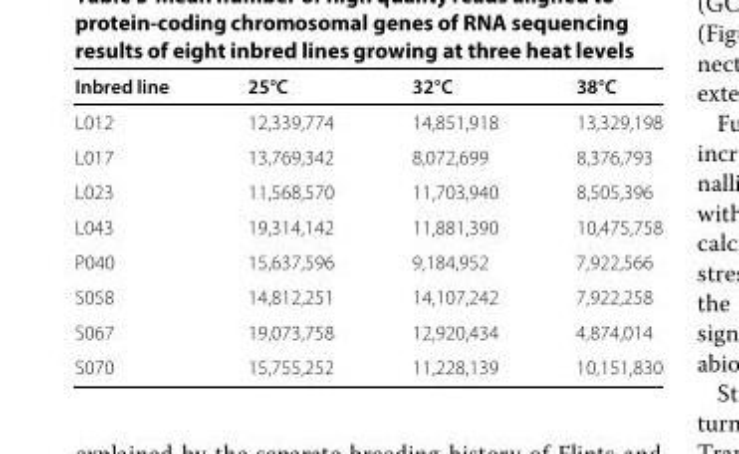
<table><thead><tr><td>Inbred line</td><td>25°C</td><td>32°C</td><td>38°C</td></tr></thead><tbody><tr><td>L012</td><td>12,339,774</td><td>14,851,918</td><td>13,329,198</td></tr><tr><td>L017</td><td>13,769,342</td><td>8,072,699</td><td>8,376,793</td></tr><tr><td>L023</td><td>11,568,570</td><td>11,703,940</td><td>8,505,396</td></tr><tr><td>L043</td><td>19,314,142</td><td>11,881,390</td><td>10,475,758</td></tr><tr><td>P040</td><td>15,637,596</td><td>9,184,952</td><td>7,922,566</td></tr><tr><td>S058</td><td>14,812,251</td><td>14,107,242</td><td>7,922,258</td></tr><tr><td>S067</td><td>19,073,758</td><td>12,920,434</td><td>4,874,014</td></tr><tr><td>S070</td><td>15,755,252</td><td>11,228,139</td><td>10,151,830</td></tr></tbody></table>